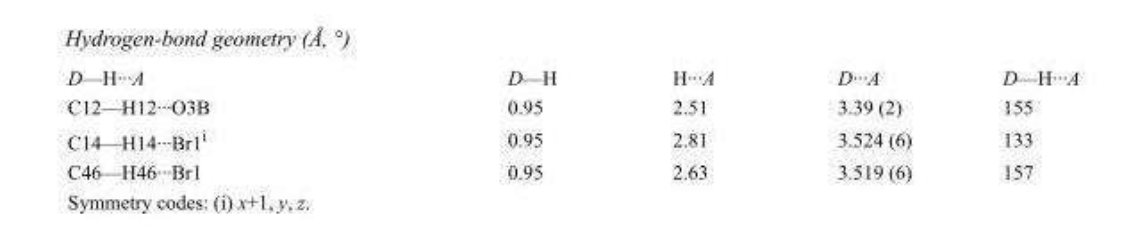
<table><tbody><tr><td>D—H···A</td><td>D—H</td><td>H···A</td><td>D···A</td><td>D—H···A</td></tr><tr><td>C12—H12···O3B</td><td>0.95</td><td>2.51</td><td>3.39 (2)</td><td>155</td></tr><tr><td>C14—H14···Br1<sup>i</sup></td><td>0.95</td><td>2.81</td><td>3.524 (6)</td><td>133</td></tr><tr><td>C46—H46···Br1</td><td>0.95</td><td>2.63</td><td>3.519 (6)</td><td>157</td></tr></tbody></table>